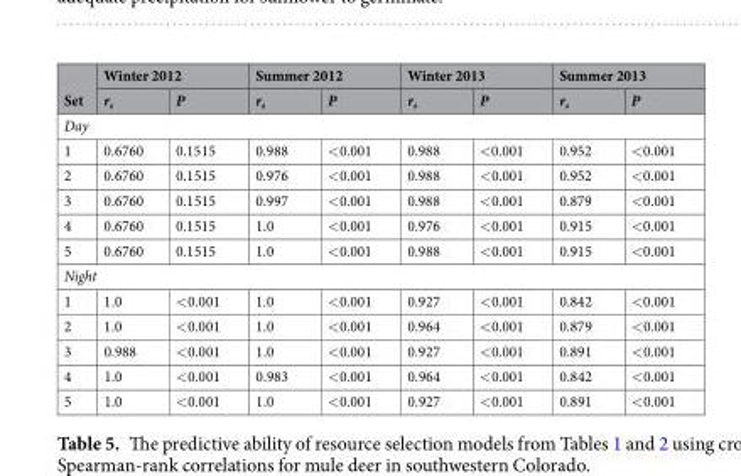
<table><thead><tr><td rowspan="2">Set</td><td colspan="2">Winter 2012</td><td colspan="2">Summer 2012</td><td colspan="2">Winter 2013</td><td colspan="2">Summer 2013</td></tr><tr><td>r<sub>s</sub></td><td>P</td><td>r<sub>s</sub></td><td>P</td><td>r<sub>s</sub></td><td>P</td><td>r<sub>s</sub></td><td>P</td></tr></thead><tbody><tr><td colspan="9">Day</td></tr><tr><td>1</td><td>0.6760</td><td>0.1515</td><td>0.988</td><td>&lt;0.001</td><td>0.988</td><td>&lt;0.001</td><td>0.952</td><td>&lt;0.001</td></tr><tr><td>2</td><td>0.6760</td><td>0.1515</td><td>0.976</td><td>&lt;0.001</td><td>0.988</td><td>&lt;0.001</td><td>0.952</td><td>&lt;0.001</td></tr><tr><td>3</td><td>0.6760</td><td>0.1515</td><td>0.997</td><td>&lt;0.001</td><td>0.988</td><td>&lt;0.001</td><td>0.879</td><td>&lt;0.001</td></tr><tr><td>4</td><td>0.6760</td><td>0.1515</td><td>1.0</td><td>&lt;0.001</td><td>0.976</td><td>&lt;0.001</td><td>0.915</td><td>&lt;0.001</td></tr><tr><td>5</td><td>0.6760</td><td>0.1515</td><td>1.0</td><td>&lt;0.001</td><td>0.988</td><td>&lt;0.001</td><td>0.915</td><td>&lt;0.001</td></tr><tr><td colspan="9">Night</td></tr><tr><td>1</td><td>1.0</td><td>&lt;0.001</td><td>1.0</td><td>&lt;0.001</td><td>0.927</td><td>&lt;0.001</td><td>0.842</td><td>&lt;0.001</td></tr><tr><td>2</td><td>1.0</td><td>&lt;0.001</td><td>1.0</td><td>&lt;0.001</td><td>0.964</td><td>&lt;0.001</td><td>0.879</td><td>&lt;0.001</td></tr><tr><td>3</td><td>0.988</td><td>&lt;0.001</td><td>1.0</td><td>&lt;0.001</td><td>0.927</td><td>&lt;0.001</td><td>0.891</td><td>&lt;0.001</td></tr><tr><td>4</td><td>1.0</td><td>&lt;0.001</td><td>0.983</td><td>&lt;0.001</td><td>0.964</td><td>&lt;0.001</td><td>0.842</td><td>&lt;0.001</td></tr><tr><td>5</td><td>1.0</td><td>&lt;0.001</td><td>1.0</td><td>&lt;0.001</td><td>0.927</td><td>&lt;0.001</td><td>0.891</td><td>&lt;0.001</td></tr></tbody></table>